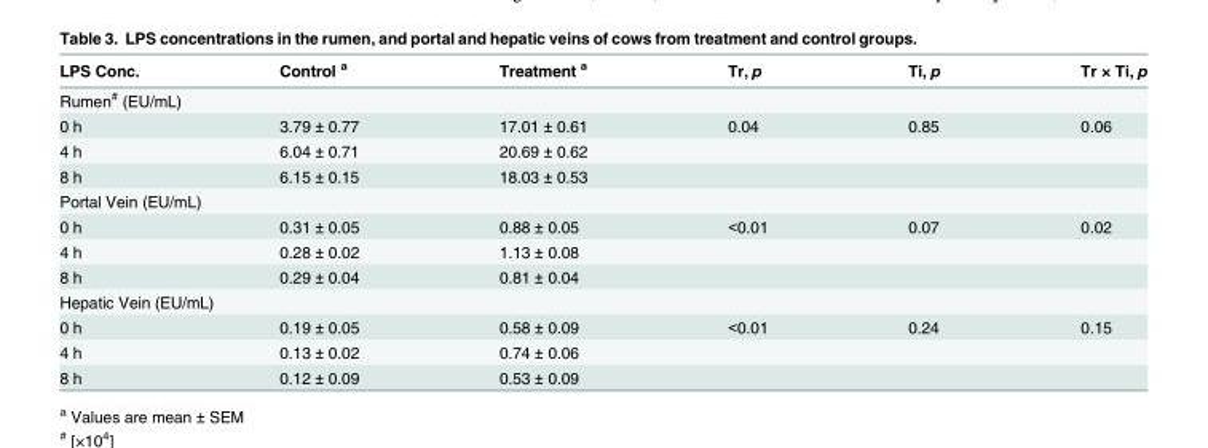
<table><thead><tr><td>LPS Conc.</td><td>Control <sup>a</sup></td><td>Treatment <sup>a</sup></td><td>Tr, p</td><td>Ti, p</td><td>Tr × Ti, p</td></tr></thead><tbody><tr><td colspan="6">Rumen<sup>#</sup> (EU/mL)</td></tr><tr><td>0 h</td><td>3.79 ± 0.77</td><td>17.01 ± 0.61</td><td>0.04</td><td>0.85</td><td>0.06</td></tr><tr><td>4 h</td><td>6.04 ± 0.71</td><td>20.69 ± 0.62</td><td></td><td></td><td></td></tr><tr><td>8 h</td><td>6.15 ± 0.15</td><td>18.03 ± 0.53</td><td></td><td></td><td></td></tr><tr><td colspan="6">Portal Vein (EU/mL)</td></tr><tr><td>0 h</td><td>0.31 ± 0.05</td><td>0.88 ± 0.05</td><td>&lt;0.01</td><td>0.07</td><td>0.02</td></tr><tr><td>4 h</td><td>0.28 ± 0.02</td><td>1.13 ± 0.08</td><td></td><td></td><td></td></tr><tr><td>8 h</td><td>0.29 ± 0.04</td><td>0.81 ± 0.04</td><td></td><td></td><td></td></tr><tr><td colspan="6">Hepatic Vein (EU/mL)</td></tr><tr><td>0 h</td><td>0.19 ± 0.05</td><td>0.58 ± 0.09</td><td>&lt;0.01</td><td>0.24</td><td>0.15</td></tr><tr><td>4 h</td><td>0.13 ± 0.02</td><td>0.74 ± 0.06</td><td></td><td></td><td></td></tr><tr><td>8 h</td><td>0.12 ± 0.09</td><td>0.53 ± 0.09</td><td></td><td></td><td></td></tr></tbody></table>